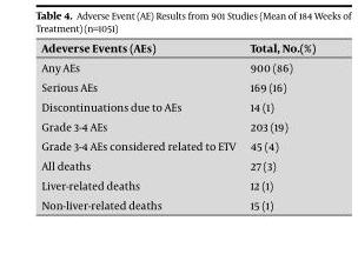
<table><thead><tr><td>Adeverse Events (AEs)</td><td>Total, No.(%)</td></tr></thead><tbody><tr><td>Any AEs</td><td>900 (86)</td></tr><tr><td>Serious AEs</td><td>169 (16)</td></tr><tr><td>Discontinuations due to AEs</td><td>14 (1)</td></tr><tr><td>Grade 3-4 AEs</td><td>203 (19)</td></tr><tr><td>Grade 3-4 AEs considered related to ETV</td><td>45 (4)</td></tr><tr><td>All deaths</td><td>27 (3)</td></tr><tr><td>Liver-related deaths</td><td>12 (1)</td></tr><tr><td>Non-liver-related deaths</td><td>15 (1)</td></tr></tbody></table>